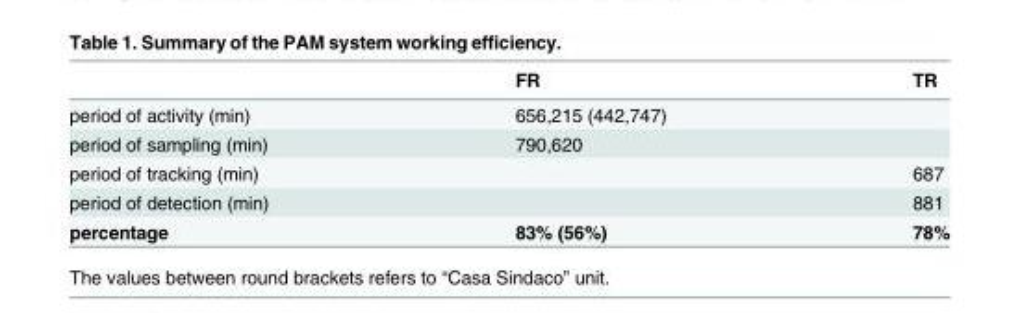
<table><thead><tr><td></td><td>FR</td><td>TR</td></tr></thead><tbody><tr><td>period of activity (min)</td><td>656,215 (442,747)</td><td></td></tr><tr><td>period of sampling (min)</td><td>790,620</td><td></td></tr><tr><td>period of tracking (min)</td><td></td><td>687</td></tr><tr><td>period of detection (min)</td><td></td><td>881</td></tr><tr><td>percentage</td><td>83% (56%)</td><td>78%</td></tr></tbody></table>